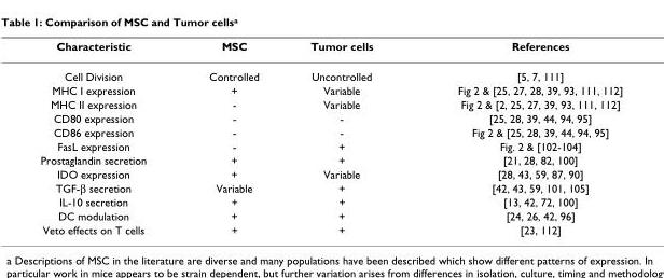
<table><thead><tr><td>Characteristic</td><td>MSC</td><td>Tumor cells</td><td>References</td></tr></thead><tbody><tr><td>Cell Division</td><td>Controlled</td><td>Uncontrolled</td><td>[5, 7, 111]</td></tr><tr><td>MHC I expression</td><td>+</td><td>Variable</td><td>Fig 2 &amp; [25, 27, 28, 39, 93, 111, 112]</td></tr><tr><td>MHC II expression</td><td>-</td><td>Variable</td><td>Fig 2 &amp; [2, 25, 27, 39, 93, 111, 112]</td></tr><tr><td>CD80 expression</td><td>-</td><td>-</td><td>[25, 28, 39, 44, 94, 95]</td></tr><tr><td>CD86 expression</td><td>-</td><td>-</td><td>Fig 2 &amp; [25, 28, 39, 44, 94, 95]</td></tr><tr><td>FasL expression</td><td>-</td><td>+</td><td>Fig. 2 &amp; [102-104]</td></tr><tr><td>Prostaglandin secretion</td><td>+</td><td>+</td><td>[21, 28, 82, 100]</td></tr><tr><td>IDO expression</td><td>+</td><td>Variable</td><td>[28, 43, 59, 87, 90]</td></tr><tr><td>TGF-β secretion</td><td>Variable</td><td>+</td><td>[42, 43, 59, 101, 105]</td></tr><tr><td>IL-10 secretion</td><td>+</td><td>+</td><td>[13, 42, 72, 100]</td></tr><tr><td>DC modulation</td><td>+</td><td>+</td><td>[24, 26, 42, 96]</td></tr><tr><td>Veto effects on T cells</td><td>+</td><td>+</td><td>[23, 112]</td></tr></tbody></table>